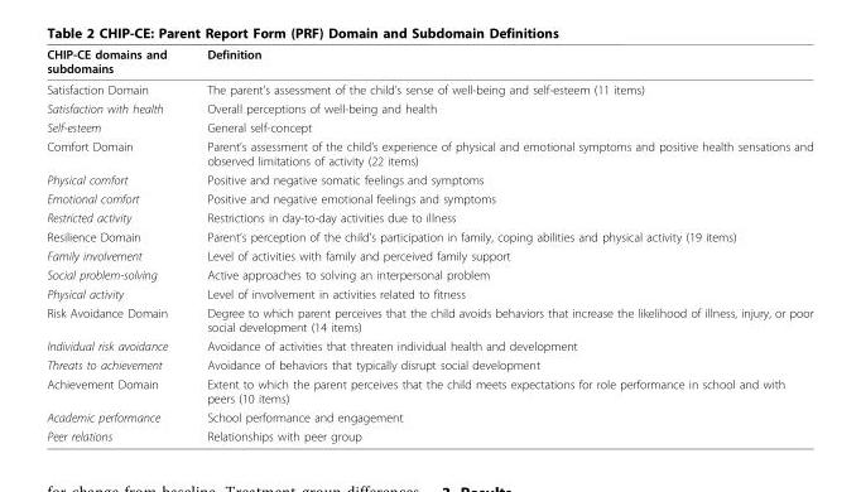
<table><thead><tr><td>CHIP-CE domains and subdomains</td><td>Definition</td></tr></thead><tbody><tr><td>Satisfaction Domain</td><td>The parent’s assessment of the child’s sense of well-being and self-esteem (11 items)</td></tr><tr><td>Satisfaction with health</td><td>Overall perceptions of well-being and health</td></tr><tr><td>Self-esteem</td><td>General self-concept</td></tr><tr><td>Comfort Domain</td><td>Parent’s assessment of the child’s experience of physical and emotional symptoms and positive health sensations and observed limitations of activity (22 items)</td></tr><tr><td>Physical comfort</td><td>Positive and negative somatic feelings and symptoms</td></tr><tr><td>Emotional comfort</td><td>Positive and negative emotional feelings and symptoms</td></tr><tr><td>Restricted activity</td><td>Restrictions in day-to-day activities due to illness</td></tr><tr><td>Resilience Domain</td><td>Parent’s perception of the child’s participation in family, coping abilities and physical activity (19 items)</td></tr><tr><td>Family involvement</td><td>Level of activities with family and perceived family support</td></tr><tr><td>Social problem-solving</td><td>Active approaches to solving an interpersonal problem</td></tr><tr><td>Physical activity</td><td>Level of involvement in activities related to fitness</td></tr><tr><td>Risk Avoidance Domain</td><td>Degree to which parent perceives that the child avoids behaviors that increase the likelihood of illness, injury, or poor social development (14 items)</td></tr><tr><td>Individual risk avoidance</td><td>Avoidance of activities that threaten individual health and development</td></tr><tr><td>Threats to achievement</td><td>Avoidance of behaviors that typically disrupt social development</td></tr><tr><td>Achievement Domain</td><td>Extent to which the parent perceives that the child meets expectations for role performance in school and with peers (10 items)</td></tr><tr><td>Academic performance</td><td>School performance and engagement</td></tr><tr><td>Peer relations</td><td>Relationships with peer group</td></tr></tbody></table>